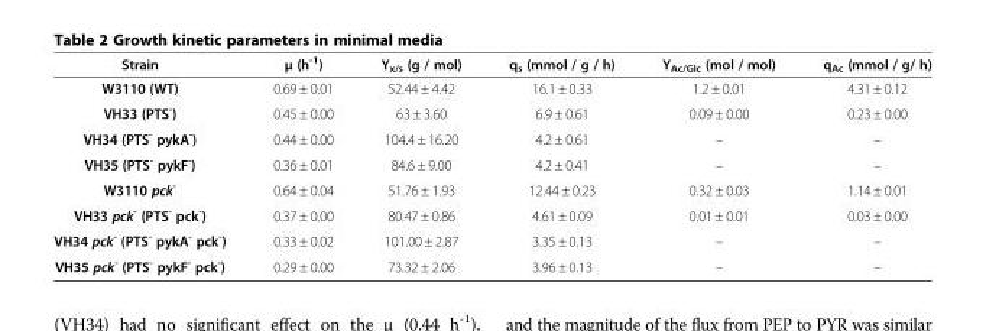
<table><thead><tr><td>Strain</td><td>μ (h<sup>-1</sup>)</td><td>Y<sub>x/s</sub> (g / mol)</td><td>q<sub>s</sub> (mmol / g / h)</td><td>Y<sub>Ac/Glc</sub> (mol / mol)</td><td>q<sub>Ac</sub> (mmol / g/ h)</td></tr></thead><tbody><tr><td>W3110 (WT)</td><td>0.69 ± 0.01</td><td>52.44 ± 4.42</td><td>16.1 ± 0.33</td><td>1.2 ± 0.01</td><td>4.31 ± 0.12</td></tr><tr><td>VH33 (PTS<sup>-</sup>)</td><td>0.45 ± 0.00</td><td>63 ± 3.60</td><td>6.9 ± 0.61</td><td>0.09 ± 0.00</td><td>0.23 ± 0.00</td></tr><tr><td>VH34 (PTS<sup>-</sup> pykA<sup>-</sup>)</td><td>0.44 ± 0.00</td><td>104.4 ± 16.20</td><td>4.2 ± 0.61</td><td>–</td><td>–</td></tr><tr><td>VH35 (PTS<sup>-</sup> pykF<sup>-</sup>)</td><td>0.36 ± 0.01</td><td>84.6 ± 9.00</td><td>4.2 ± 0.41</td><td>–</td><td>–</td></tr><tr><td>W3110 pck<sup>-</sup></td><td>0.64 ± 0.04</td><td>51.76 ± 1.93</td><td>12.44 ± 0.23</td><td>0.32 ± 0.03</td><td>1.14 ± 0.01</td></tr><tr><td>VH33 pck<sup>-</sup> (PTS<sup>-</sup> pck<sup>-</sup>)</td><td>0.37 ± 0.00</td><td>80.47 ± 0.86</td><td>4.61 ± 0.09</td><td>0.01 ± 0.01</td><td>0.03 ± 0.00</td></tr><tr><td>VH34 pck<sup>-</sup> (PTS<sup>-</sup> pykA<sup>-</sup> pck<sup>-</sup>)</td><td>0.33 ± 0.02</td><td>101.00 ± 2.87</td><td>3.35 ± 0.13</td><td>–</td><td>–</td></tr><tr><td>VH35 pck<sup>-</sup> (PTS<sup>-</sup> pykF<sup>-</sup> pck<sup>-</sup>)</td><td>0.29 ± 0.00</td><td>73.32 ± 2.06</td><td>3.96 ± 0.13</td><td>–</td><td>–</td></tr></tbody></table>